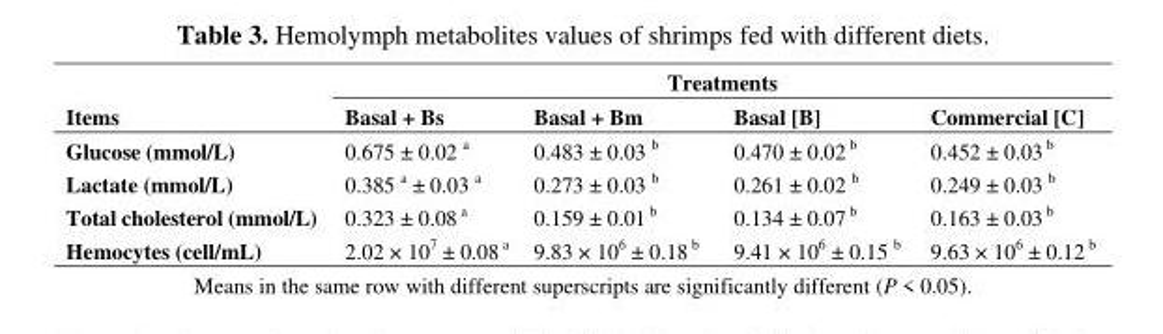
<table><thead><tr><td rowspan="2">Items</td><td colspan="4">Treatments</td></tr><tr><td>Basal + Bs</td><td>Basal + Bm</td><td>Basal [B]</td><td>Commercial [C]</td></tr></thead><tbody><tr><td>Glucose (mmol/L)</td><td>0.675 ± 0.02 <sup>a</sup></td><td>0.483 ± 0.03 <sup>b</sup></td><td>0.470 ± 0.02 <sup>b</sup></td><td>0.452 ± 0.03 <sup>b</sup></td></tr><tr><td>Lactate (mmol/L)</td><td>0.385 <sup>a</sup> ± 0.03 <sup>a</sup></td><td>0.273 ± 0.03 <sup>b</sup></td><td>0.261 ± 0.02 <sup>b</sup></td><td>0.249 ± 0.03 <sup>b</sup></td></tr><tr><td>Total cholesterol (mmol/L)</td><td>0.323 ± 0.08 <sup>a</sup></td><td>0.159 ± 0.01 <sup>b</sup></td><td>0.134 ± 0.07 <sup>b</sup></td><td>0.163 ± 0.03 <sup>b</sup></td></tr><tr><td>Hemocytes (cell/mL)</td><td>2.02 × 10<sup>7</sup> ± 0.08 <sup>a</sup></td><td>9.83 × 10<sup>6</sup> ± 0.18 <sup>b</sup></td><td>9.41 × 10<sup>6</sup> ± 0.15 <sup>b</sup></td><td>9.63 × 10<sup>6</sup> ± 0.12 <sup>b</sup></td></tr></tbody></table>